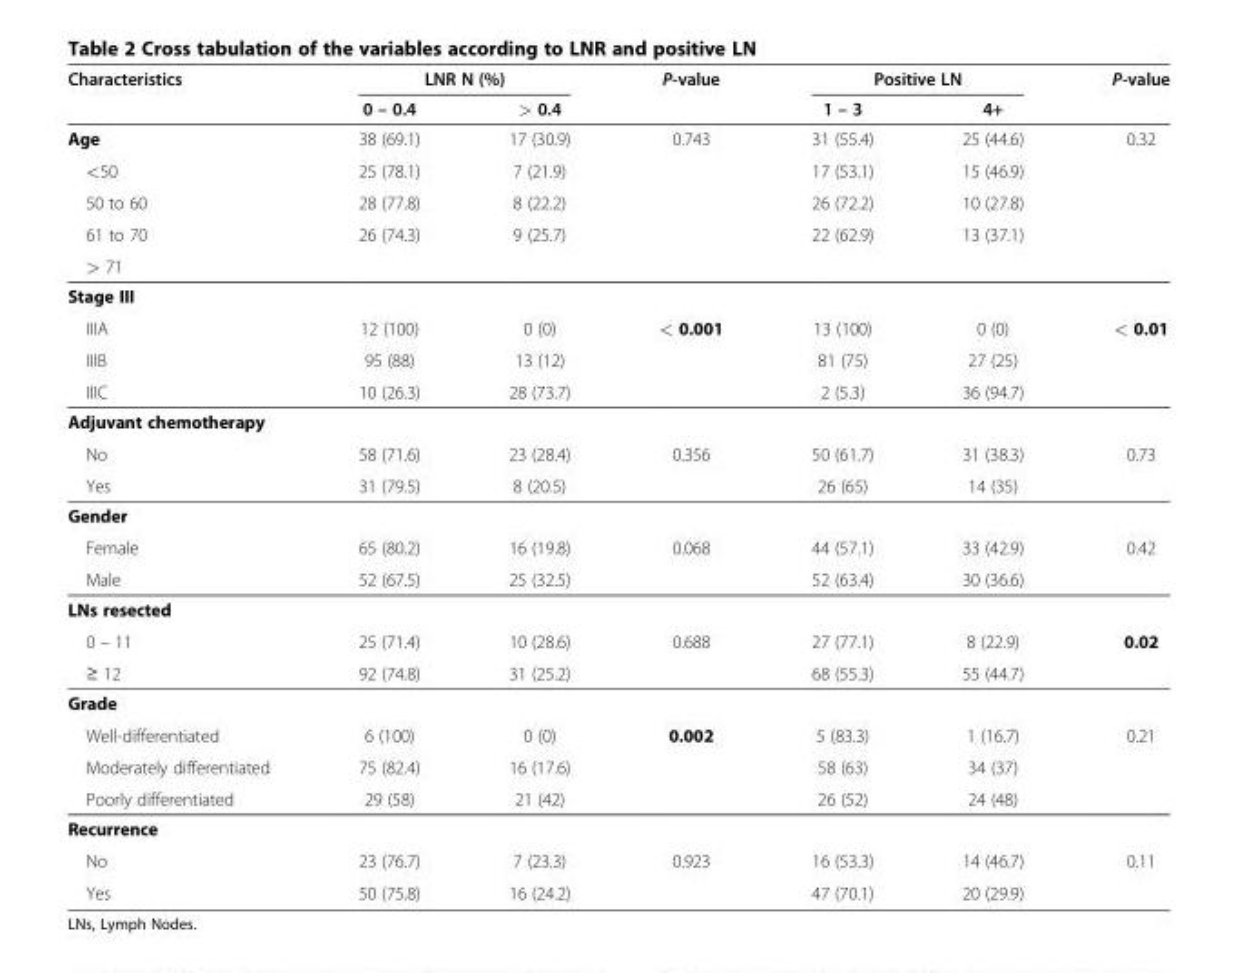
<table><thead><tr><td rowspan="2">Characteristics</td><td colspan="2">LNR N (%)</td><td rowspan="2">P-value</td><td colspan="2">Positive LN</td><td rowspan="2">P-value</td></tr><tr><td>0 – 0.4</td><td>&gt; 0.4</td><td>1 – 3</td><td>4+</td></tr></thead><tbody><tr><td>Age</td><td>38 (69.1)</td><td>17 (30.9)</td><td>0.743</td><td>31 (55.4)</td><td>25 (44.6)</td><td>0.32</td></tr><tr><td>&lt;50</td><td>25 (78.1)</td><td>7 (21.9)</td><td></td><td>17 (53.1)</td><td>15 (46.9)</td><td></td></tr><tr><td>50 to 60</td><td>28 (77.8)</td><td>8 (22.2)</td><td></td><td>26 (72.2)</td><td>10 (27.8)</td><td></td></tr><tr><td>61 to 70</td><td>26 (74.3)</td><td>9 (25.7)</td><td></td><td>22 (62.9)</td><td>13 (37.1)</td><td></td></tr><tr><td colspan="7">&gt; 71</td></tr><tr><td colspan="7">Stage III</td></tr><tr><td>IIIA</td><td>12 (100)</td><td>0 (0)</td><td>&lt; 0.001</td><td>13 (100)</td><td>0 (0)</td><td>&lt; 0.01</td></tr><tr><td>IIIB</td><td>95 (88)</td><td>13 (12)</td><td></td><td>81 (75)</td><td>27 (25)</td><td></td></tr><tr><td>IIIC</td><td>10 (26.3)</td><td>28 (73.7)</td><td></td><td>2 (5.3)</td><td>36 (94.7)</td><td></td></tr><tr><td colspan="7">Adjuvant chemotherapy</td></tr><tr><td>No</td><td>58 (71.6)</td><td>23 (28.4)</td><td>0.356</td><td>50 (61.7)</td><td>31 (38.3)</td><td>0.73</td></tr><tr><td>Yes</td><td>31 (79.5)</td><td>8 (20.5)</td><td></td><td>26 (65)</td><td>14 (35)</td><td></td></tr><tr><td colspan="7">Gender</td></tr><tr><td>Female</td><td>65 (80.2)</td><td>16 (19.8)</td><td>0.068</td><td>44 (57.1)</td><td>33 (42.9)</td><td>0.42</td></tr><tr><td>Male</td><td>52 (67.5)</td><td>25 (32.5)</td><td></td><td>52 (63.4)</td><td>30 (36.6)</td><td></td></tr><tr><td colspan="7">LNs resected</td></tr><tr><td>0 – 11</td><td>25 (71.4)</td><td>10 (28.6)</td><td>0.688</td><td>27 (77.1)</td><td>8 (22.9)</td><td>0.02</td></tr><tr><td>≥ 12</td><td>92 (74.8)</td><td>31 (25.2)</td><td></td><td>68 (55.3)</td><td>55 (44.7)</td><td></td></tr><tr><td colspan="7">Grade</td></tr><tr><td>Well-differentiated</td><td>6 (100)</td><td>0 (0)</td><td>0.002</td><td>5 (83.3)</td><td>1 (16.7)</td><td>0.21</td></tr><tr><td>Moderately differentiated</td><td>75 (82.4)</td><td>16 (17.6)</td><td></td><td>58 (63)</td><td>34 (37)</td><td></td></tr><tr><td>Poorly differentiated</td><td>29 (58)</td><td>21 (42)</td><td></td><td>26 (52)</td><td>24 (48)</td><td></td></tr><tr><td colspan="7">Recurrence</td></tr><tr><td>No</td><td>23 (76.7)</td><td>7 (23.3)</td><td>0.923</td><td>16 (53.3)</td><td>14 (46.7)</td><td>0.11</td></tr><tr><td>Yes</td><td>50 (75.8)</td><td>16 (24.2)</td><td></td><td>47 (70.1)</td><td>20 (29.9)</td><td></td></tr></tbody></table>